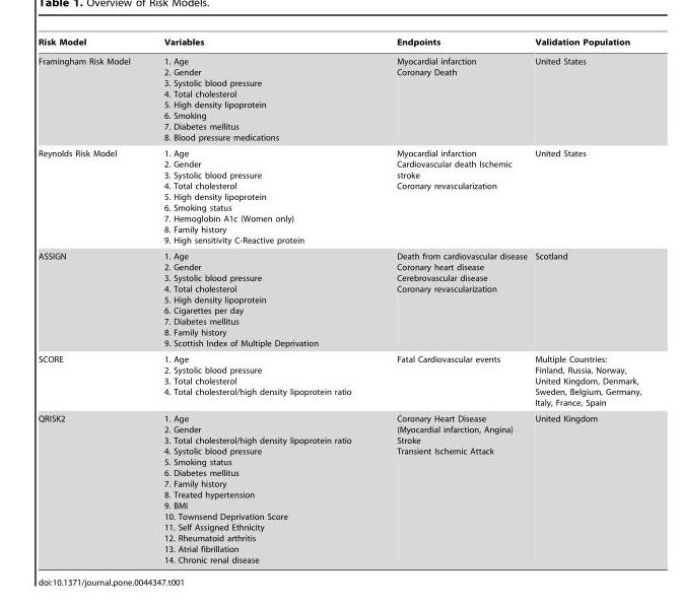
<table><thead><tr><td>Risk Model</td><td>Variables</td><td>Endpoints</td><td>Validation Population</td></tr></thead><tbody><tr><td>Framingham Risk Model</td><td>1. Age 2. Gender 3. Systolic blood pressure 4. Total cholesterol 5. High density lipoprotein 6. Smoking 7. Diabetes mellitus 8. Blood pressure medications</td><td>Myocardial infarction Coronary Death</td><td>United States</td></tr><tr><td>Reynolds Risk Model</td><td>1. Age 2. Gender 3. Systolic blood pressure 4. Total cholesterol 5. High density lipoprotein 6. Smoking status 7. Hemoglobin A1c (Women only) 8. Family history 9. High sensitivity C-Reactive protein</td><td>Myocardial infarction Cardiovascular death Ischemic stroke Coronary revascularization</td><td>United States</td></tr><tr><td>ASSIGN</td><td>1. Age 2. Gender 3. Systolic blood pressure 4. Total cholesterol 5. High density lipoprotein 6. Cigarettes per day 7. Diabetes mellitus 8. Family history 9. Scottish Index of Multiple Deprivation</td><td>Death from cardiovascular disease Coronary heart disease Cerebrovascular disease Coronary revascularization</td><td>Scotland</td></tr><tr><td>SCORE</td><td>1. Age 2. Systolic blood pressure 3. Total cholesterol 4. Total cholesterol/high density lipoprotein ratio</td><td>Fatal Cardiovascular events</td><td>Multiple Countries: Finland, Russia, Norway, United Kingdom, Denmark, Sweden, Belgium, Germany, Italy, France, Spain</td></tr><tr><td>QRISK2</td><td>1. Age 2. Gender 3. Total cholesterol/high density lipoprotein ratio 4. Systolic blood pressure 5. Smoking status 6. Diabetes mellitus 7. Family history 8. Treated hypertension 9. BMI 10. Townsend Deprivation Score 11. Self Assigned Ethnicity 12. Rheumatoid arthritis 13. Atrial fibrillation 14. Chronic renal disease</td><td>Coronary Heart Disease (Myocardial infarction, Angina) Stroke Transient Ischemic Attack</td><td>United Kingdom</td></tr></tbody></table>